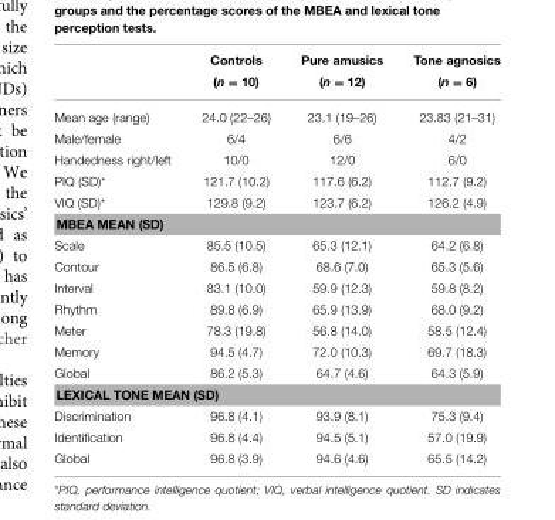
<table><thead><tr><td></td><td>Controls (n = 10)</td><td>Pure amusics (n = 12)</td><td>Tone agnosics (n = 6)</td></tr></thead><tbody><tr><td>Mean age (range)</td><td>24.0 (22–26)</td><td>23.1 (19–26)</td><td>23.83 (21–31)</td></tr><tr><td>Male/female</td><td>6/4</td><td>6/6</td><td>4/2</td></tr><tr><td>Handedness right/left</td><td>10/0</td><td>12/0</td><td>6/0</td></tr><tr><td>PIQ (SD)*</td><td>121.7 (10.2)</td><td>117.6 (6.2)</td><td>112.7 (9.2)</td></tr><tr><td>VIQ (SD)*</td><td>129.8 (9.2)</td><td>123.7 (6.2)</td><td>126.2 (4.9)</td></tr><tr><td colspan="4">MBEA MEAN (SD)</td></tr><tr><td>Scale</td><td>85.5 (10.5)</td><td>65.3 (12.1)</td><td>64.2 (6.8)</td></tr><tr><td>Contour</td><td>86.5 (6.8)</td><td>68.6 (7.0)</td><td>65.3 (5.6)</td></tr><tr><td>Interval</td><td>83.1 (10.0)</td><td>59.9 (12.3)</td><td>59.8 (8.2)</td></tr><tr><td>Rhythm</td><td>89.8 (6.9)</td><td>65.9 (13.9)</td><td>68.0 (9.2)</td></tr><tr><td>Meter</td><td>78.3 (19.8)</td><td>56.8 (14.0)</td><td>58.5 (12.4)</td></tr><tr><td>Memory</td><td>94.5 (4.7)</td><td>72.0 (10.3)</td><td>69.7 (18.3)</td></tr><tr><td>Global</td><td>86.2 (5.3)</td><td>64.7 (4.6)</td><td>64.3 (5.9)</td></tr><tr><td colspan="4">LEXICAL TONE MEAN (SD)</td></tr><tr><td>Discrimination</td><td>96.8 (4.1)</td><td>93.9 (8.1)</td><td>75.3 (9.4)</td></tr><tr><td>Identification</td><td>96.8 (4.4)</td><td>94.5 (5.1)</td><td>57.0 (19.9)</td></tr><tr><td>Global</td><td>96.8 (3.9)</td><td>94.6 (4.6)</td><td>65.5 (14.2)</td></tr></tbody></table>